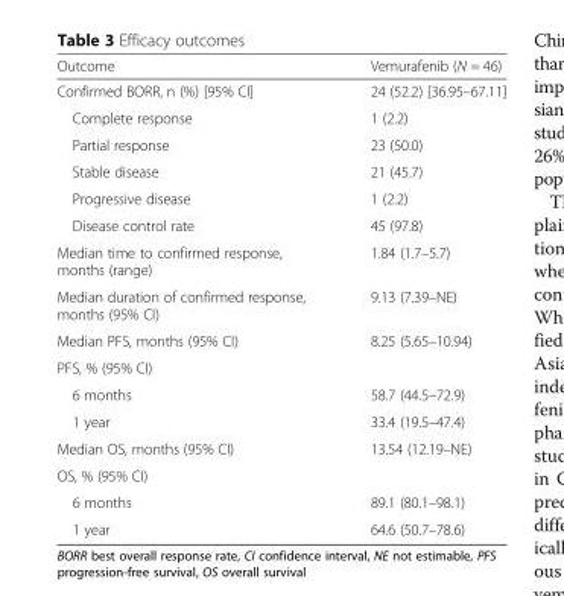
<table><thead><tr><td>Outcome</td><td>Vemurafenib (N = 46)</td></tr></thead><tbody><tr><td>Confirmed BORR, n (%) [95% CI]</td><td>24 (52.2) [36.95–67.11]</td></tr><tr><td>Complete response</td><td>1 (2.2)</td></tr><tr><td>Partial response</td><td>23 (50.0)</td></tr><tr><td>Stable disease</td><td>21 (45.7)</td></tr><tr><td>Progressive disease</td><td>1 (2.2)</td></tr><tr><td>Disease control rate</td><td>45 (97.8)</td></tr><tr><td>Median time to confirmed response, months (range)</td><td>1.84 (1.7–5.7)</td></tr><tr><td>Median duration of confirmed response, months (95% CI)</td><td>9.13 (7.39–NE)</td></tr><tr><td>Median PFS, months (95% CI)</td><td>8.25 (5.65–10.94)</td></tr><tr><td colspan="2">PFS, % (95% CI)</td></tr><tr><td>6 months</td><td>58.7 (44.5–72.9)</td></tr><tr><td>1 year</td><td>33.4 (19.5–47.4)</td></tr><tr><td>Median OS, months (95% CI)</td><td>13.54 (12.19–NE)</td></tr><tr><td colspan="2">OS, % (95% CI)</td></tr><tr><td>6 months</td><td>89.1 (80.1–98.1)</td></tr><tr><td>1 year</td><td>64.6 (50.7–78.6)</td></tr></tbody></table>